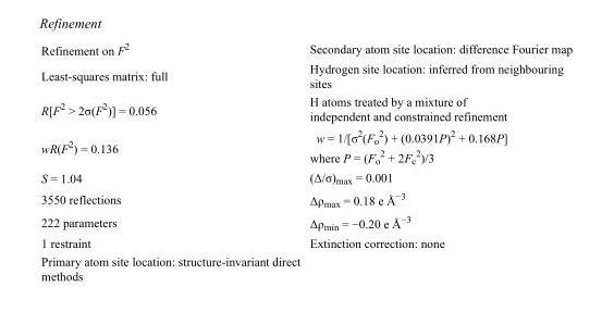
<table><tbody><tr><td>Refinement on F<sup>2</sup></td><td>Secondary atom site location: difference Fourier map</td></tr><tr><td>Least-squares matrix: full</td><td>Hydrogen site location: inferred from neighbouring sites</td></tr><tr><td>R[F<sup>2</sup> &gt; 2σ(F<sup>2</sup>)] = 0.056</td><td>H atoms treated by a mixture of independent and constrained refinement</td></tr><tr><td>wR(F<sup>2</sup>) = 0.136</td><td>w = 1/[σ<sup>2</sup>(F<sub>o</sub> <sup>2</sup>) + (0.0391P)<sup>2</sup> + 0.168P] where P = (F<sub>o</sub> <sup>2</sup> + 2F<sub>c</sub> <sup>2</sup>)/3</td></tr><tr><td>S = 1.04</td><td>(Δ/σ)<sub>max</sub> = 0.001</td></tr><tr><td>3550 reflections</td><td>Δρ<sub>max</sub> = 0.18 e Å<sup>−3</sup></td></tr><tr><td>222 parameters</td><td>Δρ<sub>min</sub> = −0.20 e Å<sup>−3</sup></td></tr><tr><td>1 restraint</td><td>Extinction correction: none</td></tr><tr><td>Primary atom site location: structure-invariant direct methods</td><td></td></tr></tbody></table>